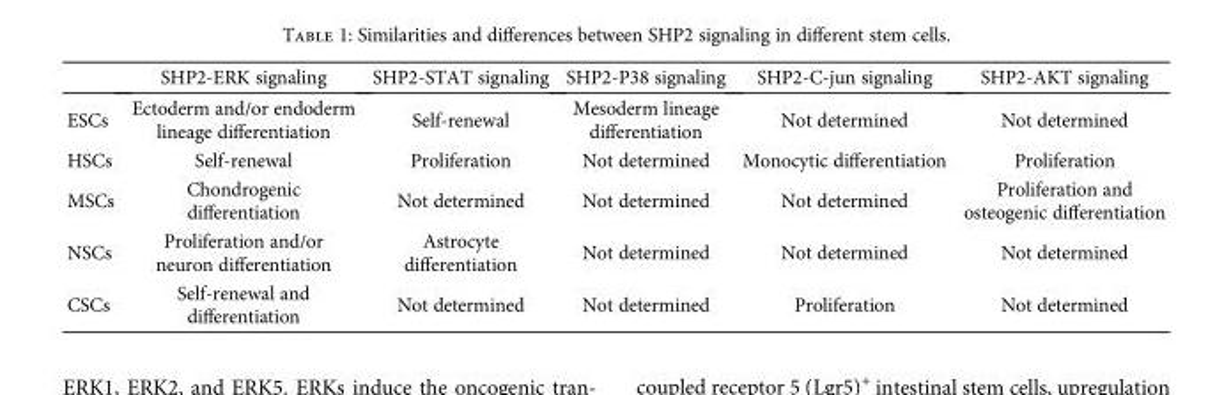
<table><thead><tr><td></td><td>SHP2-ERK signaling</td><td>SHP2-STAT signaling</td><td>SHP2-P38 signaling</td><td>SHP2-C-jun signaling</td><td>SHP2-AKT signaling</td></tr></thead><tbody><tr><td>ESCs</td><td>Ectoderm and/or endoderm lineage differentiation</td><td>Self-renewal</td><td>Mesoderm lineage differentiation</td><td>Not determined</td><td>Not determined</td></tr><tr><td>HSCs</td><td>Self-renewal</td><td>Proliferation</td><td>Not determined</td><td>Monocytic differentiation</td><td>Proliferation</td></tr><tr><td>MSCs</td><td>Chondrogenic differentiation</td><td>Not determined</td><td>Not determined</td><td>Not determined</td><td>Proliferation and osteogenic differentiation</td></tr><tr><td>NSCs</td><td>Proliferation and/or neuron differentiation</td><td>Astrocyte differentiation</td><td>Not determined</td><td>Not determined</td><td>Not determined</td></tr><tr><td>CSCs</td><td>Self-renewal and differentiation</td><td>Not determined</td><td>Not determined</td><td>Proliferation</td><td>Not determined</td></tr></tbody></table>